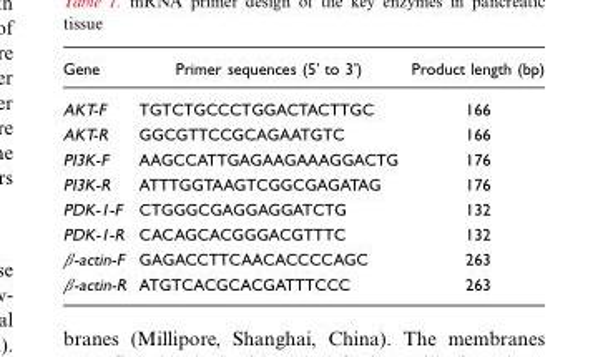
<table><thead><tr><td>Gene</td><td>Primer sequences (5’ to 3’)</td><td>Product length (bp)</td></tr></thead><tbody><tr><td>AKT-F</td><td>TGTCTGCCCTGGACTACTTGC</td><td>166</td></tr><tr><td>AKT-R</td><td>GGCGTTCCGCAGAATGTC</td><td>166</td></tr><tr><td>PI3K-F</td><td>AAGCCATTGAGAAGAAAGGACTG</td><td>176</td></tr><tr><td>PI3K-R</td><td>ATTTGGTAAGTCGGCGAGATAG</td><td>176</td></tr><tr><td>PDK-1-F</td><td>CTGGGCGAGGAGGATCTG</td><td>132</td></tr><tr><td>PDK-1-R</td><td>CACAGCACGGGACGTTTC</td><td>132</td></tr><tr><td>β-actin-F</td><td>GAGACCTTCAACACCCCAGC</td><td>263</td></tr><tr><td>β-actin-R</td><td>ATGTCACGCACGATTTCCC</td><td>263</td></tr></tbody></table>